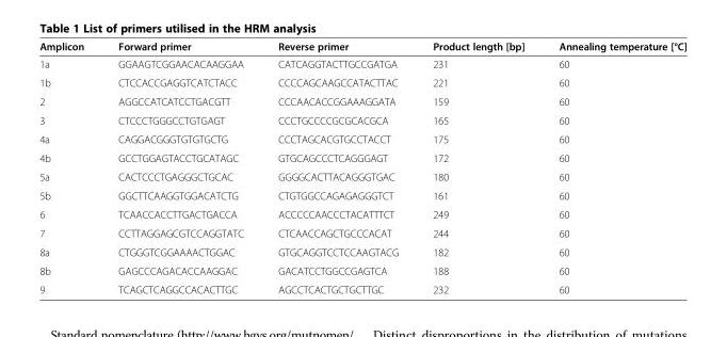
<table><thead><tr><td>Amplicon</td><td>Forward primer</td><td>Reverse primer</td><td>Product length [bp]</td><td>Annealing temperature [°C]</td></tr></thead><tbody><tr><td>1a</td><td>GGAAGTCGGAACACAAGGAA</td><td>CATCAGGTACTTGCCGATGA</td><td>231</td><td>60</td></tr><tr><td>1b</td><td>CTCCACCGAGGTCATCTACC</td><td>CCCCAGCAAGCCATACTTAC</td><td>221</td><td>60</td></tr><tr><td>2</td><td>AGGCCATCATCCTGACGTT</td><td>CCCAACACCGGAAAGGATA</td><td>159</td><td>60</td></tr><tr><td>3</td><td>CTCCCTGGGCCTGTGAGT</td><td>CCCTGCCCCGCGCACGCA</td><td>165</td><td>60</td></tr><tr><td>4a</td><td>CAGGACGGGTGTGTGCTG</td><td>CCCTAGCACGTGCCTACCT</td><td>175</td><td>60</td></tr><tr><td>4b</td><td>GCCTGGAGTACCTGCATAGC</td><td>GTGCAGCCCTCAGGGAGT</td><td>172</td><td>60</td></tr><tr><td>5a</td><td>CACTCCCTGAGGGCTGCAC</td><td>GGGGCACTTACAGGGTGAC</td><td>180</td><td>60</td></tr><tr><td>5b</td><td>GGCTTCAAGGTGGACATCTG</td><td>CTGTGGCCAGAGAGGGTCT</td><td>161</td><td>60</td></tr><tr><td>6</td><td>TCAACCACCTTGACTGACCA</td><td>ACCCCCAACCCTACATTTCT</td><td>249</td><td>60</td></tr><tr><td>7</td><td>CCTTAGGAGCGTCCAGGTATC</td><td>CTCAACCAGCTGCCCACAT</td><td>244</td><td>60</td></tr><tr><td>8a</td><td>CTGGGTCGGAAAACTGGAC</td><td>GTGCAGGTCCTCCAAGTACG</td><td>182</td><td>60</td></tr><tr><td>8b</td><td>GAGCCCAGACACCAAGGAC</td><td>GACATCCTGGCCGAGTCA</td><td>188</td><td>60</td></tr><tr><td>9</td><td>TCAGCTCAGGCCACACTTGC</td><td>AGCCTCACTGCTGCTTGC</td><td>232</td><td>60</td></tr></tbody></table>